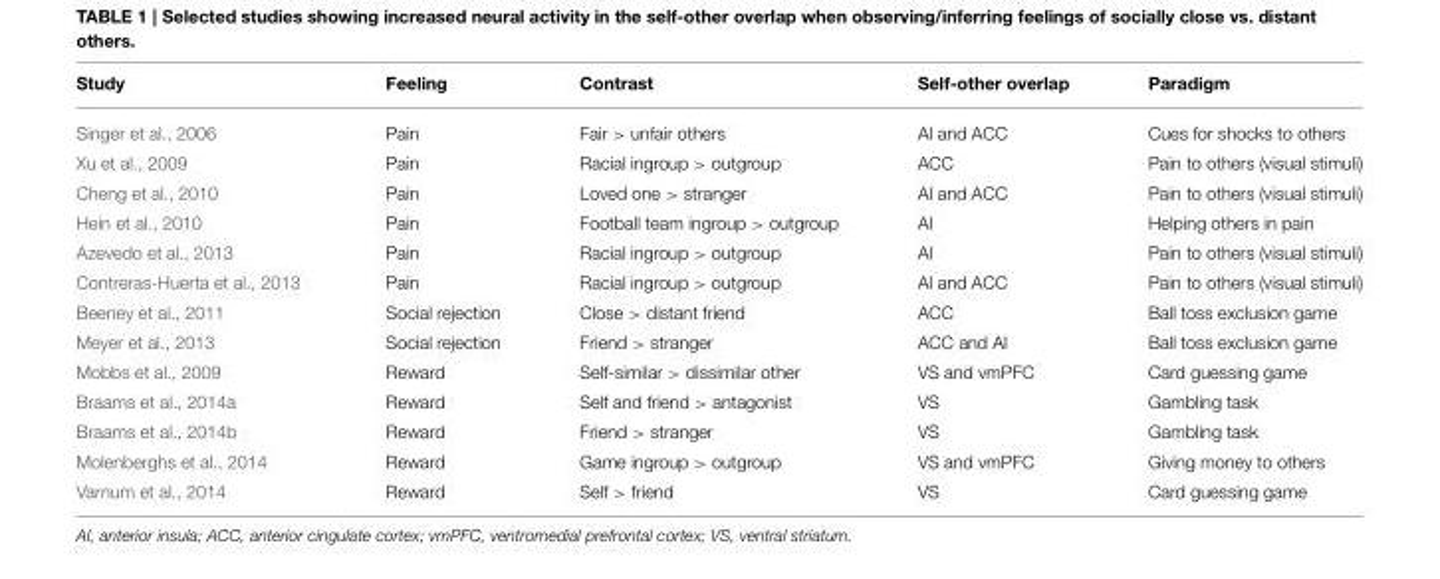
<table><thead><tr><td>Study</td><td>Feeling</td><td>Contrast</td><td>Self-other overlap</td><td>Paradigm</td></tr></thead><tbody><tr><td>Singer et al., 2006</td><td>Pain</td><td>Fair &gt; unfair others</td><td>AI and ACC</td><td>Cues for shocks to others</td></tr><tr><td>Xu et al., 2009</td><td>Pain</td><td>Racial ingroup &gt; outgroup</td><td>ACC</td><td>Pain to others (visual stimuli)</td></tr><tr><td>Cheng et al., 2010</td><td>Pain</td><td>Loved one &gt; stranger</td><td>AI and ACC</td><td>Pain to others (visual stimuli)</td></tr><tr><td>Hein et al., 2010</td><td>Pain</td><td>Football team ingroup &gt; outgroup</td><td>AI</td><td>Helping others in pain</td></tr><tr><td>Azevedo et al., 2013</td><td>Pain</td><td>Racial ingroup &gt; outgroup</td><td>AI</td><td>Pain to others (visual stimuli)</td></tr><tr><td>Contreras-Huerta et al., 2013</td><td>Pain</td><td>Racial ingroup &gt; outgroup</td><td>AI and ACC</td><td>Pain to others (visual stimuli)</td></tr><tr><td>Beeney et al., 2011</td><td>Social rejection</td><td>Close &gt; distant friend</td><td>ACC</td><td>Ball toss exclusion game</td></tr><tr><td>Meyer et al., 2013</td><td>Social rejection</td><td>Friend &gt; stranger</td><td>ACC and AI</td><td>Ball toss exclusion game</td></tr><tr><td>Mobbs et al., 2009</td><td>Reward</td><td>Self-similar &gt; dissimilar other</td><td>VS and vmPFC</td><td>Card guessing game</td></tr><tr><td>Braams et al., 2014a</td><td>Reward</td><td>Self and friend &gt; antagonist</td><td>VS</td><td>Gambling task</td></tr><tr><td>Braams et al., 2014b</td><td>Reward</td><td>Friend &gt; stranger</td><td>VS</td><td>Gambling task</td></tr><tr><td>Molenberghs et al., 2014</td><td>Reward</td><td>Game ingroup &gt; outgroup</td><td>VS and vmPFC</td><td>Giving money to others</td></tr><tr><td>Varnum et al., 2014</td><td>Reward</td><td>Self &gt; friend</td><td>VS</td><td>Card guessing game</td></tr></tbody></table>